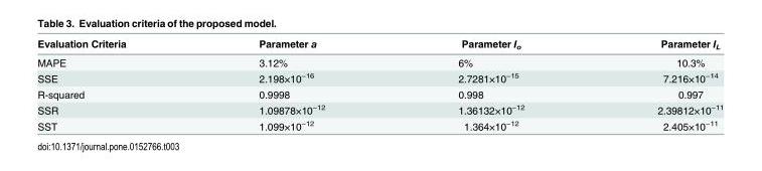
<table><thead><tr><td>Evaluation Criteria</td><td>Parameter a</td><td>Parameter I<sub>o</sub></td><td>Parameter I<sub>L</sub></td></tr></thead><tbody><tr><td>MAPE</td><td>3.12%</td><td>6%</td><td>10.3%</td></tr><tr><td>SSE</td><td>2.198×10<sup>−16</sup></td><td>2.7281×10<sup>−15</sup></td><td>7.216×10<sup>−14</sup></td></tr><tr><td>R-squared</td><td>0.9998</td><td>0.998</td><td>0.997</td></tr><tr><td>SSR</td><td>1.09878×10<sup>−12</sup></td><td>1.36132×10<sup>−12</sup></td><td>2.39812×10<sup>−11</sup></td></tr><tr><td>SST</td><td>1.099×10<sup>−12</sup></td><td>1.364×10<sup>−12</sup></td><td>2.405×10<sup>−11</sup></td></tr></tbody></table>